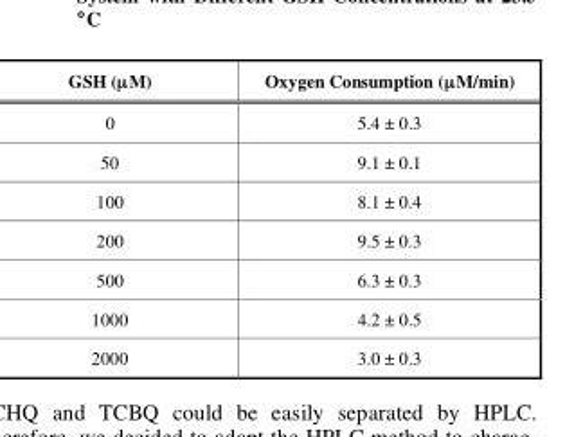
<table><thead><tr><td>GSH (μM)</td><td>Oxygen Consumption (μM/min)</td></tr></thead><tbody><tr><td>0</td><td>5.4 ± 0.3</td></tr><tr><td>50</td><td>9.1 ± 0.1</td></tr><tr><td>100</td><td>8.1 ± 0.4</td></tr><tr><td>200</td><td>9.5 ± 0.3</td></tr><tr><td>500</td><td>6.3 ± 0.3</td></tr><tr><td>1000</td><td>4.2 ± 0.5</td></tr><tr><td>2000</td><td>3.0 ± 0.3</td></tr></tbody></table>